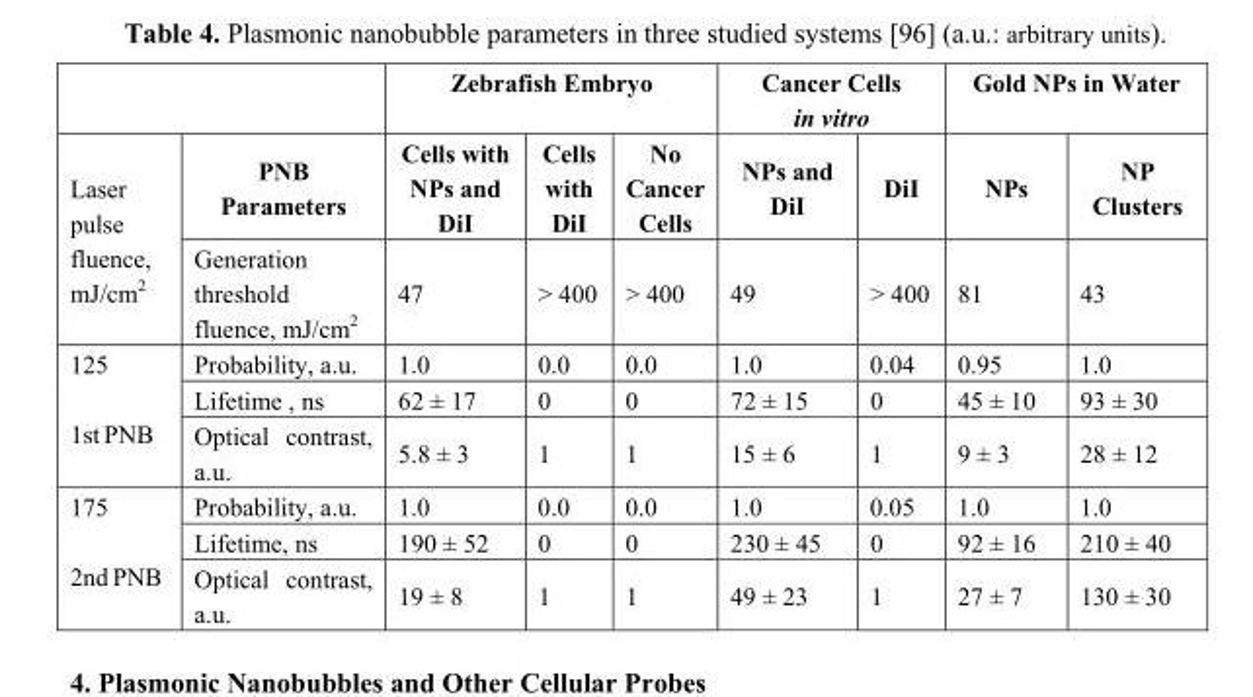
<table><thead><tr><td rowspan="3">Laser pulse fluence, mJ/cm<sup>2</sup></td><td rowspan="3">PNB Parameters Generation threshold fluence, mJ/cm<sup>2</sup></td><td colspan="3">Zebrafish Embryo</td><td colspan="2">Cancer Cells in vitro</td><td colspan="2">Gold NPs in Water</td></tr><tr><td rowspan="2">Cells with NPs and DiI 47</td><td rowspan="2">Cells with DiI &gt; 400</td><td rowspan="2">No Cancer Cells &gt; 400</td><td rowspan="2">NPs and DiI 49</td><td rowspan="2">DiI &gt; 400</td><td rowspan="2">NPs 81</td><td rowspan="2">NP Clusters 43</td></tr><tr></tr></thead><tbody><tr><td rowspan="3">125 1st PNB</td><td>Probability, a.u.</td><td>1.0</td><td>0.0</td><td>0.0</td><td>1.0</td><td>0.04</td><td>0.95</td><td>1.0</td></tr><tr><td>Lifetime , ns</td><td>62 ± 17</td><td>0</td><td>0</td><td>72 ± 15</td><td>0</td><td>45 ± 10</td><td>93 ± 30</td></tr><tr><td>Optical contrast, a.u.</td><td>5.8 ± 3</td><td>1</td><td>1</td><td>15 ± 6</td><td>1</td><td>9 ± 3</td><td>28 ± 12</td></tr><tr><td rowspan="3">175 2nd PNB</td><td>Probability, a.u.</td><td>1.0</td><td>0.0</td><td>0.0</td><td>1.0</td><td>0.05</td><td>1.0</td><td>1.0</td></tr><tr><td>Lifetime, ns</td><td>190 ± 52</td><td>0</td><td>0</td><td>230 ± 45</td><td>0</td><td>92 ± 16</td><td>210 ± 40</td></tr><tr><td>Optical contrast, a.u.</td><td>19 ± 8</td><td>1</td><td>1</td><td>49 ± 23</td><td>1</td><td>27 ± 7</td><td>130 ± 30</td></tr></tbody></table>